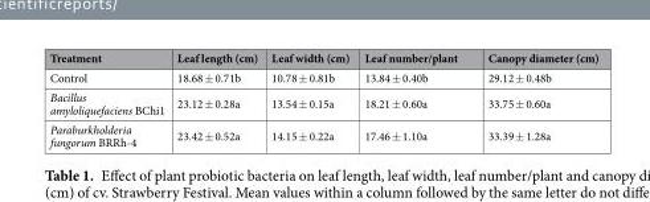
<table><thead><tr><td>Treatment</td><td>Leaf length (cm)</td><td>Leaf width (cm)</td><td>Leaf number/plant</td><td>Canopy diameter (cm)</td></tr></thead><tbody><tr><td>Control</td><td>18.68 ± 0.71b</td><td>10.78 ± 0.81b</td><td>13.84 ± 0.40b</td><td>29.12 ± 0.48b</td></tr><tr><td>Bacillus amyloliquefaciens BChi1</td><td>23.12 ± 0.28a</td><td>13.54 ± 0.15a</td><td>18.21 ± 0.60a</td><td>33.75 ± 0.60a</td></tr><tr><td>Paraburkholderia fungorum BRRh-4</td><td>23.42 ± 0.52a</td><td>14.15 ± 0.22a</td><td>17.46 ± 1.10a</td><td>33.39 ± 1.28a</td></tr></tbody></table>